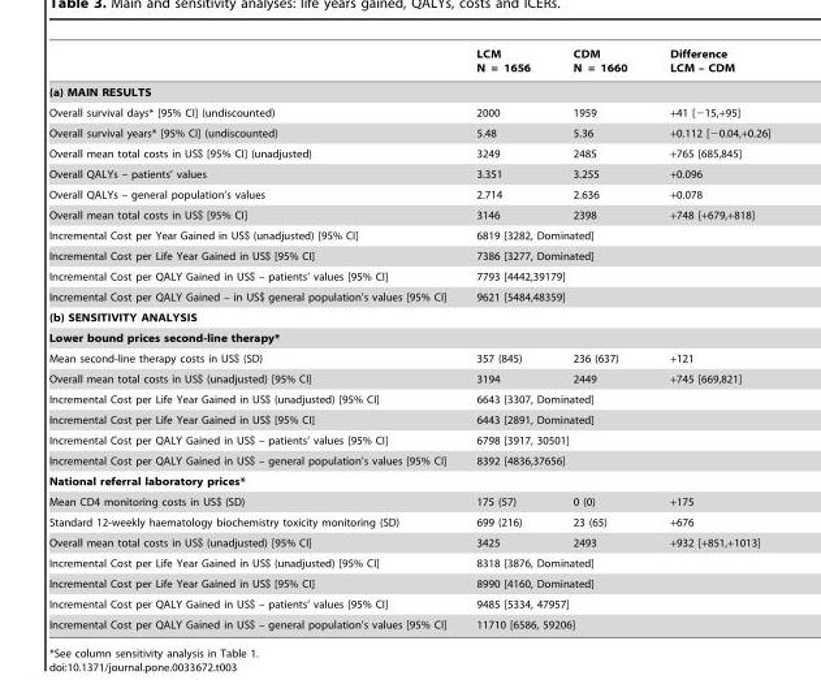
<table><thead><tr><td></td><td>LCM N = 1656</td><td>CDM N = 1660</td><td>Difference LCM – CDM</td></tr></thead><tbody><tr><td colspan="4">(a) MAIN RESULTS</td></tr><tr><td>Overall survival days* [95% CI] (undiscounted)</td><td>2000</td><td>1959</td><td>+41 [−15,+95]</td></tr><tr><td>Overall survival years* [95% CI] (undiscounted)</td><td>5.48</td><td>5.36</td><td>+0.112 [−0.04,+0.26]</td></tr><tr><td>Overall mean total costs in US$ [95% CI] (unadjusted)</td><td>3249</td><td>2485</td><td>+765 [685,845]</td></tr><tr><td>Overall QALYs – patients’ values</td><td>3.351</td><td>3.255</td><td>+0.096</td></tr><tr><td>Overall QALYs – general population’s values</td><td>2.714</td><td>2.636</td><td>+0.078</td></tr><tr><td>Overall mean total costs in US$ [95% CI]</td><td>3146</td><td>2398</td><td>+748 [+679,+818]</td></tr><tr><td>Incremental Cost per Year Gained in US$ (unadjusted) [95% CI]</td><td colspan="3">6819 [3282, Dominated]</td></tr><tr><td>Incremental Cost per Life Year Gained in US$ [95% CI]</td><td colspan="3">7386 [3277, Dominated]</td></tr><tr><td>Incremental Cost per QALY Gained in US$ – patients’ values [95% CI]</td><td colspan="3">7793 [4442,39179]</td></tr><tr><td>Incremental Cost per QALY Gained – in US$ general population’s values [95% CI]</td><td colspan="3">9621 [5484,48359]</td></tr><tr><td colspan="4">(b) SENSITIVITY ANALYSIS</td></tr><tr><td colspan="4">Lower bound prices second-line therapy*</td></tr><tr><td>Mean second-line therapy costs in US$ (SD)</td><td>357 (845)</td><td>236 (637)</td><td>+121</td></tr><tr><td>Overall mean total costs in US$ (unadjusted) [95% CI]</td><td>3194</td><td>2449</td><td>+745 [669,821]</td></tr><tr><td>Incremental Cost per Life Year Gained in US$ (unadjusted) [95% CI]</td><td colspan="3">6643 [3307, Dominated]</td></tr><tr><td>Incremental Cost per Life Year Gained in US$ [95% CI]</td><td colspan="3">6443 [2891, Dominated]</td></tr><tr><td>Incremental Cost per QALY Gained in US$ – patients’ values [95% CI]</td><td colspan="3">6798 [3917, 30501]</td></tr><tr><td>Incremental Cost per QALY Gained in US$ – general population’s values [95% CI]</td><td colspan="3">8392 [4836,37656]</td></tr><tr><td colspan="4">National referral laboratory prices*</td></tr><tr><td>Mean CD4 monitoring costs in US$ (SD)</td><td>175 (57)</td><td>0 (0)</td><td>+175</td></tr><tr><td>Standard 12-weekly haematology biochemistry toxicity monitoring (SD)</td><td>699 (216)</td><td>23 (65)</td><td>+676</td></tr><tr><td>Overall mean total costs in US$ (unadjusted) [95% CI]</td><td>3425</td><td>2493</td><td>+932 [+851,+1013]</td></tr><tr><td>Incremental Cost per Life Year Gained in US$ (unadjusted) [95% CI]</td><td colspan="3">8318 [3876, Dominated]</td></tr><tr><td>Incremental Cost per Life Year Gained in US$ [95% CI]</td><td colspan="3">8990 [4160, Dominated]</td></tr><tr><td>Incremental Cost per QALY Gained in US$ – patients’ values [95% CI]</td><td colspan="3">9485 [5334, 47957]</td></tr><tr><td>Incremental Cost per QALY Gained in US$ – general population’s values [95% CI]</td><td colspan="3">11710 [6586, 59206]</td></tr></tbody></table>